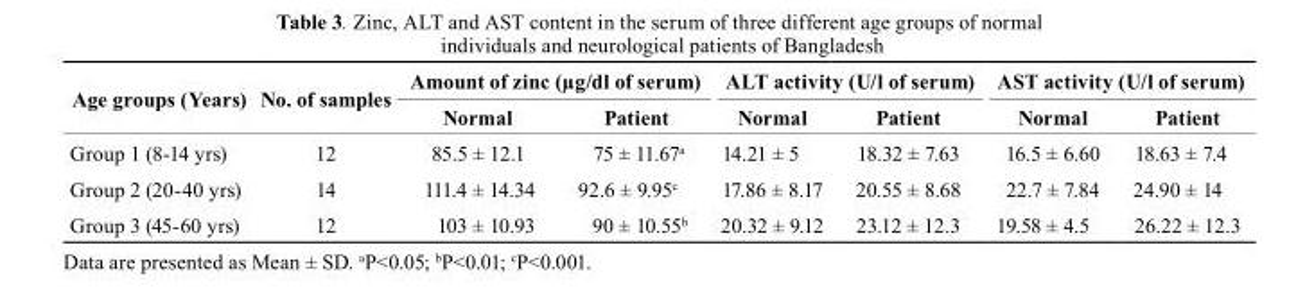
<table><thead><tr><td rowspan="2">Age groups (Years)</td><td rowspan="2">no. of samples</td><td colspan="2">Amount of zinc (µg/dl of serum)</td><td colspan="2">ALT activity (u/l of serum)</td><td colspan="2">AST activity (u/l of serum)</td></tr><tr><td>normal</td><td>Patient</td><td>normal</td><td>Patient</td><td>normal</td><td>Patient</td></tr></thead><tbody><tr><td>Group 1 (8-14 yrs)</td><td>12</td><td>85.5 ± 12.1</td><td>75 ± 11.67<sup>a</sup></td><td>14.21 ± 5</td><td>18.32 ± 7.63</td><td>16.5 ± 6.60</td><td>18.63 ± 7.4</td></tr><tr><td>Group 2 (20-40 yrs)</td><td>14</td><td>111.4 ± 14.34</td><td>92.6 ± 9.95<sup>c</sup></td><td>17.86 ± 8.17</td><td>20.55 ± 8.68</td><td>22.7 ± 7.84</td><td>24.90 ± 14</td></tr><tr><td>Group 3 (45-60 yrs)</td><td>12</td><td>103 ± 10.93</td><td>90 ± 10.55<sup>b</sup></td><td>20.32 ± 9.12</td><td>23.12 ± 12.3</td><td>19.58 ± 4.5</td><td>26.22 ± 12.3</td></tr></tbody></table>